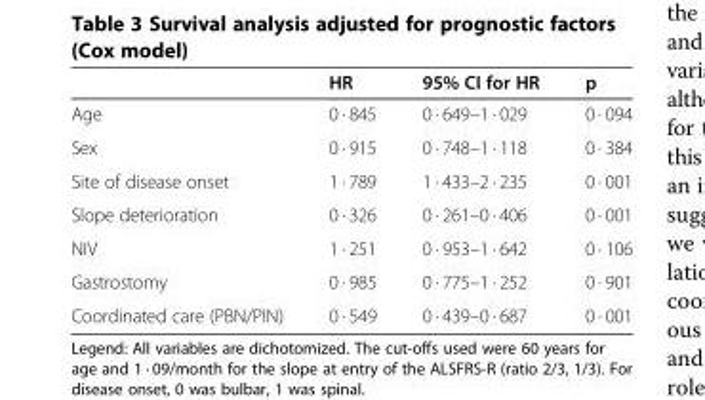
<table><thead><tr><td></td><td>HR</td><td>95% CI for HR</td><td>p</td></tr></thead><tbody><tr><td>Age</td><td>0 · 845</td><td>0 · 649–1 · 029</td><td>0 · 094</td></tr><tr><td>Sex</td><td>0 · 915</td><td>0 · 748–1 · 118</td><td>0 · 384</td></tr><tr><td>Site of disease onset</td><td>1 · 789</td><td>1 · 433–2 · 235</td><td>0 · 001</td></tr><tr><td>Slope deterioration</td><td>0 · 326</td><td>0 · 261–0 · 406</td><td>0 · 001</td></tr><tr><td>NIV</td><td>1 · 251</td><td>0 · 953–1 · 642</td><td>0 · 106</td></tr><tr><td>Gastrostomy</td><td>0 · 985</td><td>0 · 775–1 · 252</td><td>0 · 901</td></tr><tr><td>Coordinated care (PBN/PIN)</td><td>0 · 549</td><td>0 · 439–0 · 687</td><td>0 · 001</td></tr></tbody></table>